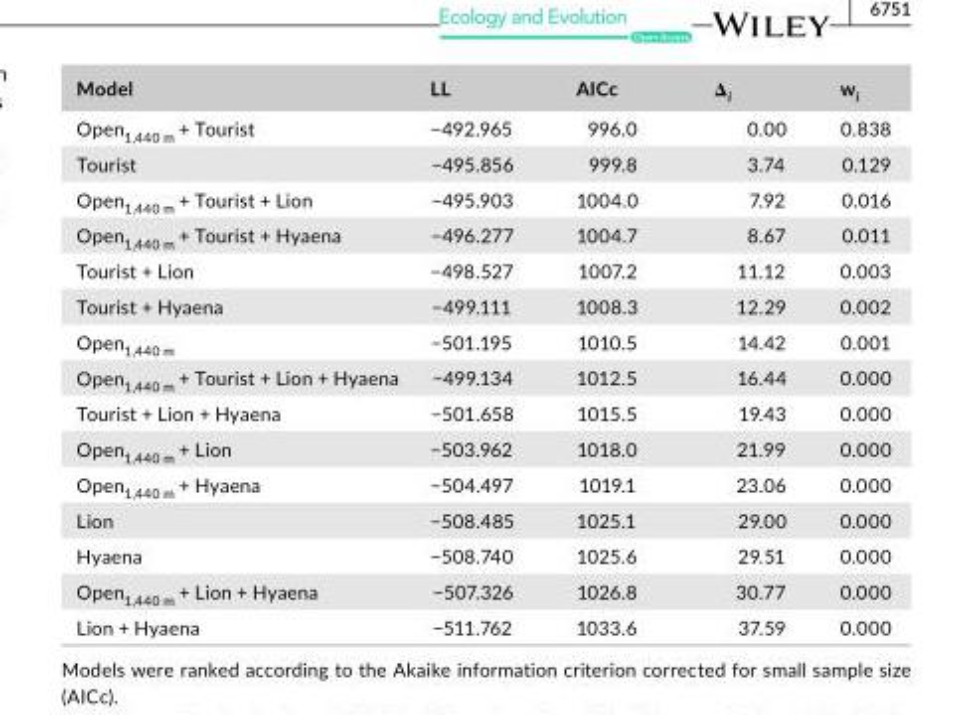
<table><thead><tr><td>Model</td><td>LL</td><td>AICc</td><td>Δ<sub>i</sub></td><td>w<sub>i</sub></td></tr></thead><tbody><tr><td>Open<sub>1,440 m</sub> + Tourist</td><td>−492.965</td><td>996.0</td><td>0.00</td><td>0.838</td></tr><tr><td>Tourist</td><td>−495.856</td><td>999.8</td><td>3.74</td><td>0.129</td></tr><tr><td>Open<sub>1,440 m</sub> + Tourist + Lion</td><td>−495.903</td><td>1004.0</td><td>7.92</td><td>0.016</td></tr><tr><td>Open<sub>1,440 m</sub> + Tourist + Hyaena</td><td>−496.277</td><td>1004.7</td><td>8.67</td><td>0.011</td></tr><tr><td>Tourist + Lion</td><td>−498.527</td><td>1007.2</td><td>11.12</td><td>0.003</td></tr><tr><td>Tourist + Hyaena</td><td>−499.111</td><td>1008.3</td><td>12.29</td><td>0.002</td></tr><tr><td>Open<sub>1,440 m</sub></td><td>−501.195</td><td>1010.5</td><td>14.42</td><td>0.001</td></tr><tr><td>Open<sub>1,440 m</sub> + Tourist + Lion + Hyaena</td><td>−499.134</td><td>1012.5</td><td>16.44</td><td>0.000</td></tr><tr><td>Tourist + Lion + Hyaena</td><td>−501.658</td><td>1015.5</td><td>19.43</td><td>0.000</td></tr><tr><td>Open<sub>1,440 m</sub> + Lion</td><td>−503.962</td><td>1018.0</td><td>21.99</td><td>0.000</td></tr><tr><td>Open<sub>1,440 m</sub> + Hyaena</td><td>−504.497</td><td>1019.1</td><td>23.06</td><td>0.000</td></tr><tr><td>Lion</td><td>−508.485</td><td>1025.1</td><td>29.00</td><td>0.000</td></tr><tr><td>Hyaena</td><td>−508.740</td><td>1025.6</td><td>29.51</td><td>0.000</td></tr><tr><td>Open<sub>1,440 m</sub> + Lion + Hyaena</td><td>−507.326</td><td>1026.8</td><td>30.77</td><td>0.000</td></tr><tr><td>Lion + Hyaena</td><td>−511.762</td><td>1033.6</td><td>37.59</td><td>0.000</td></tr></tbody></table>